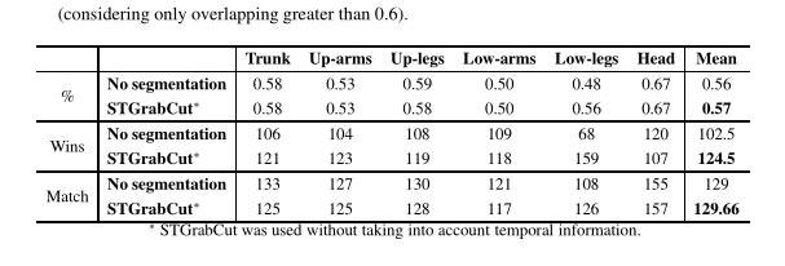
<table><thead><tr><td></td><td></td><td>Trunk</td><td>Up-arms</td><td>Up-legs</td><td>Low-arms</td><td>Low-legs</td><td>Head</td><td>Mean</td></tr></thead><tbody><tr><td rowspan="2">%</td><td>No segmentation</td><td>0.58</td><td>0.53</td><td>0.59</td><td>0.50</td><td>0.48</td><td>0.67</td><td>0.56</td></tr><tr><td>STGrabCut∗</td><td>0.58</td><td>0.53</td><td>0.58</td><td>0.50</td><td>0.56</td><td>0.67</td><td>0.57</td></tr><tr><td rowspan="2">Wins</td><td>No segmentation</td><td>106</td><td>104</td><td>108</td><td>109</td><td>68</td><td>120</td><td>102.5</td></tr><tr><td>STGrabCut∗</td><td>121</td><td>123</td><td>119</td><td>118</td><td>159</td><td>107</td><td>124.5</td></tr><tr><td rowspan="2">Match</td><td>No segmentation</td><td>133</td><td>127</td><td>130</td><td>121</td><td>108</td><td>155</td><td>129</td></tr><tr><td>STGrabCut∗</td><td>125</td><td>125</td><td>128</td><td>117</td><td>126</td><td>157</td><td>129.66</td></tr></tbody></table>